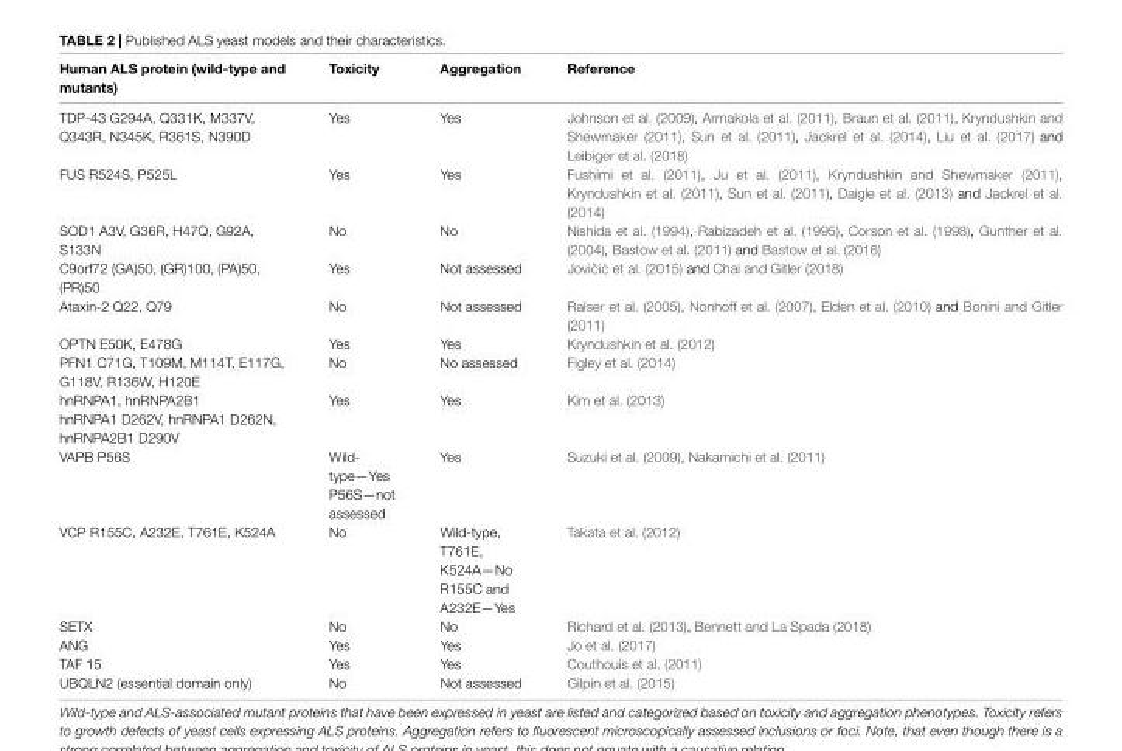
<table><thead><tr><td>Human ALS protein (wild-type and mutants)</td><td>Toxicity</td><td>Aggregation</td><td>Reference</td></tr></thead><tbody><tr><td>TDP-43 G294A, Q331K, M337V, Q343R, N345K, R361S, N390D</td><td>Yes</td><td>Yes</td><td>Johnson et al. (2009), Armakola et al. (2011), Braun et al. (2011), Kryndushkin and Shewmaker (2011), Sun et al. (2011), Jackrel et al. (2014), Liu et al. (2017) and Leibiger et al. (2018)</td></tr><tr><td>FUS R524S, P525L</td><td>Yes</td><td>Yes</td><td>Fushimi et al. (2011), Ju et al. (2011), Kryndushkin and Shewmaker (2011), Kryndushkin et al. (2011), Sun et al. (2011), Daigle et al. (2013) and Jackrel et al. (2014)</td></tr><tr><td>SOD1 A3V, G36R, H47Q, G92A, S133N</td><td>No</td><td>No</td><td>Nishida et al. (1994), Rabizadeh et al. (1995), Corson et al. (1998), Gunther et al. (2004), Bastow et al. (2011) and Bastow et al. (2016)</td></tr><tr><td>C9orf72 (GA)50, (GR)100, (PA)50, (PR)50</td><td>Yes</td><td>Not assessed</td><td>Jovi ˇci ´c et al. (2015) and Chai and Gitler (2018)</td></tr><tr><td>Ataxin-2 Q22, Q79</td><td>No</td><td>Not assessed</td><td>Ralser et al. (2005), Nonhoff et al. (2007), Elden et al. (2010) and Bonini and Gitler (2011)</td></tr><tr><td>OPTN E50K, E478G</td><td>Yes</td><td>Yes</td><td>Kryndushkin et al. (2012)</td></tr><tr><td>PFN1 C71G, T109M, M114T, E117G, G118V, R136W, H120E</td><td>No</td><td>No assessed</td><td>Figley et al. (2014)</td></tr><tr><td>hnRNPA1, hnRNPA2B1 hnRNPA1 D262V, hnRNPA1 D262N, hnRNPA2B1 D290V</td><td>Yes</td><td>Yes</td><td>Kim et al. (2013)</td></tr><tr><td>VAPB P56S</td><td>Wild- type—Yes P56S—not assessed</td><td>Yes</td><td>Suzuki et al. (2009), Nakamichi et al. (2011)</td></tr><tr><td>VCP R155C, A232E, T761E, K524A</td><td>No</td><td>Wild-type, T761E, K524A—No R155C and A232E—Yes</td><td>Takata et al. (2012)</td></tr><tr><td>SETX</td><td>No</td><td>No</td><td>Richard et al. (2013), Bennett and La Spada (2018)</td></tr><tr><td>ANG</td><td>Yes</td><td>Yes</td><td>Jo et al. (2017)</td></tr><tr><td>TAF 15</td><td>Yes</td><td>Yes</td><td>Couthouis et al. (2011)</td></tr><tr><td>UBQLN2 (essential domain only)</td><td>No</td><td>Not assessed</td><td>Gilpin et al. (2015)</td></tr></tbody></table>